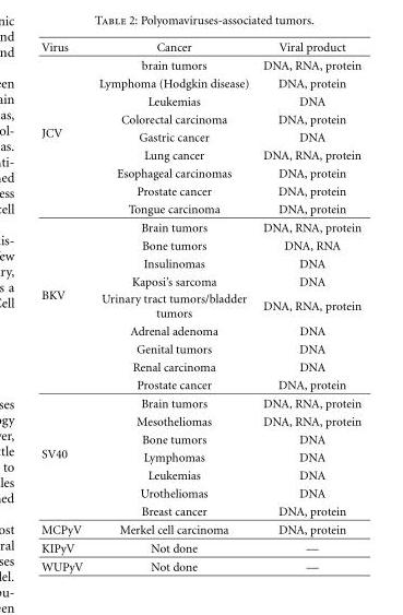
<table><thead><tr><td>Virus</td><td>Cancer</td><td>Viral product</td></tr></thead><tbody><tr><td rowspan="9">JCV</td><td>brain tumors</td><td>DNA, RNA, protein</td></tr><tr><td>Lymphoma (Hodgkin disease)</td><td>DNA, protein</td></tr><tr><td>Leukemias</td><td>DNA</td></tr><tr><td>Colorectal carcinoma</td><td>DNA, protein</td></tr><tr><td>Gastric cancer</td><td>DNA</td></tr><tr><td>Lung cancer</td><td>DNA, RNA, protein</td></tr><tr><td>Esophageal carcinomas</td><td>DNA, protein</td></tr><tr><td>Prostate cancer</td><td>DNA, protein</td></tr><tr><td>Tongue carcinoma</td><td>DNA, protein</td></tr><tr><td rowspan="9">BKV</td><td>Brain tumors</td><td>DNA, RNA, protein</td></tr><tr><td>Bone tumors</td><td>DNA, RNA</td></tr><tr><td>Insulinomas</td><td>DNA</td></tr><tr><td>Kaposi’s sarcoma</td><td>DNA</td></tr><tr><td>Urinary tract tumors/bladder tumors</td><td>DNA, RNA, protein</td></tr><tr><td>Adrenal adenoma</td><td>DNA</td></tr><tr><td>Genital tumors</td><td>DNA</td></tr><tr><td>Renal carcinoma</td><td>DNA</td></tr><tr><td>Prostate cancer</td><td>DNA, protein</td></tr><tr><td rowspan="7">SV40</td><td>Brain tumors</td><td>DNA, RNA, protein</td></tr><tr><td>Mesotheliomas</td><td>DNA, RNA, protein</td></tr><tr><td>Bone tumors</td><td>DNA</td></tr><tr><td>Lymphomas</td><td>DNA</td></tr><tr><td>Leukemias</td><td>DNA</td></tr><tr><td>Urotheliomas</td><td>DNA</td></tr><tr><td>Breast cancer</td><td>DNA, protein</td></tr><tr><td>MCPyV</td><td>Merkel cell carcinoma</td><td>DNA, protein</td></tr><tr><td>KIPyV</td><td>Not done</td><td>—</td></tr><tr><td>WUPyV</td><td>Not done</td><td>—</td></tr></tbody></table>